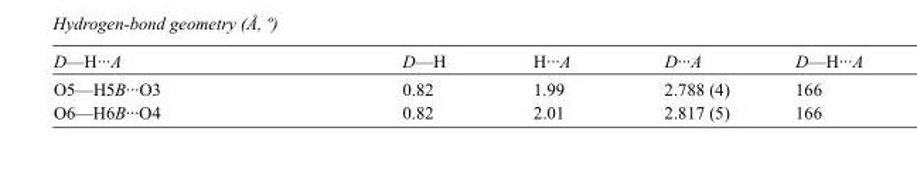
<table><tbody><tr><td>D—H···A</td><td>D—H</td><td>H···A</td><td>D···A</td><td>D—H···A</td></tr><tr><td>O5—H5B···O3</td><td>0.82</td><td>1.99</td><td>2.788 (4)</td><td>166</td></tr><tr><td>O6—H6B···O4</td><td>0.82</td><td>2.01</td><td>2.817 (5)</td><td>166</td></tr></tbody></table>